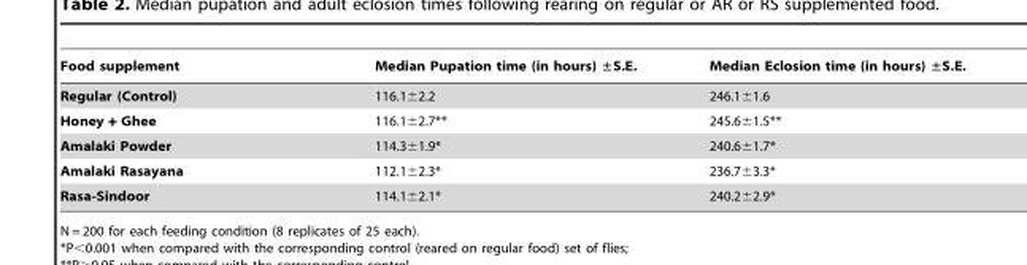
<table><thead><tr><td>Food supplement</td><td>Median Pupation time (in hours) ±S.E.</td><td>Median Eclosion time (in hours) ±S.E.</td></tr></thead><tbody><tr><td>Regular (Control)</td><td>116.1±2.2</td><td>246.1±1.6</td></tr><tr><td>Honey + Ghee</td><td>116.1±2.7**</td><td>245.6±1.5**</td></tr><tr><td>Amalaki Powder</td><td>114.3±1.9*</td><td>240.6±1.7*</td></tr><tr><td>Amalaki Rasayana</td><td>112.1±2.3*</td><td>236.7±3.3*</td></tr><tr><td>Rasa-Sindoor</td><td>114.1±2.1*</td><td>240.2±2.9*</td></tr></tbody></table>